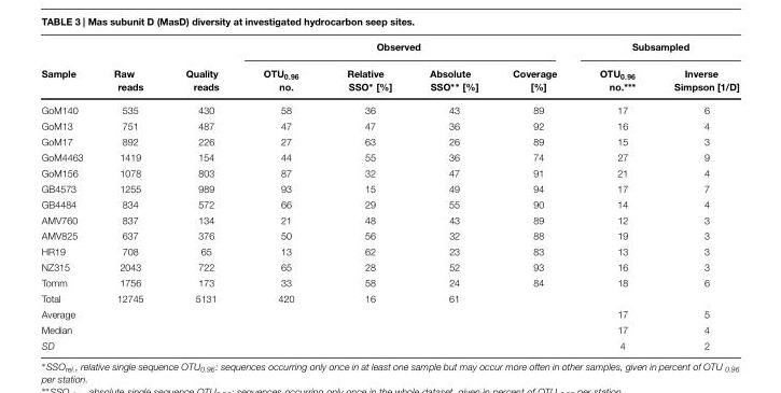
<table><thead><tr><td rowspan="2">Sample</td><td rowspan="2">Raw reads</td><td rowspan="2">Quality reads</td><td colspan="4">Observed</td><td colspan="2">Subsampled</td></tr><tr><td>OTU<sub>0.96</sub> no.</td><td>Relative SSO∗ [%]</td><td>Absolute SSO∗∗ [%]</td><td>Coverage [%]</td><td>OTU<sub>0.96</sub> no.∗∗∗</td><td>Inverse Simpson [1/D]</td></tr></thead><tbody><tr><td>GoM140</td><td>535</td><td>430</td><td>58</td><td>36</td><td>43</td><td>89</td><td>17</td><td>6</td></tr><tr><td>GoM13</td><td>751</td><td>487</td><td>47</td><td>47</td><td>36</td><td>92</td><td>16</td><td>4</td></tr><tr><td>GoM17</td><td>892</td><td>226</td><td>27</td><td>63</td><td>26</td><td>89</td><td>15</td><td>3</td></tr><tr><td>GoM4463</td><td>1419</td><td>154</td><td>44</td><td>55</td><td>36</td><td>74</td><td>27</td><td>9</td></tr><tr><td>GoM156</td><td>1078</td><td>803</td><td>87</td><td>32</td><td>47</td><td>91</td><td>21</td><td>4</td></tr><tr><td>GB4573</td><td>1255</td><td>989</td><td>93</td><td>15</td><td>49</td><td>94</td><td>17</td><td>7</td></tr><tr><td>GB4484</td><td>834</td><td>572</td><td>66</td><td>29</td><td>55</td><td>90</td><td>14</td><td>4</td></tr><tr><td>AMV760</td><td>837</td><td>134</td><td>21</td><td>48</td><td>43</td><td>89</td><td>12</td><td>3</td></tr><tr><td>AMV825</td><td>637</td><td>376</td><td>50</td><td>56</td><td>32</td><td>88</td><td>19</td><td>3</td></tr><tr><td>HR19</td><td>708</td><td>65</td><td>13</td><td>62</td><td>23</td><td>83</td><td>13</td><td>3</td></tr><tr><td>NZ315</td><td>2043</td><td>722</td><td>65</td><td>28</td><td>52</td><td>93</td><td>16</td><td>3</td></tr><tr><td>Tomm</td><td>1756</td><td>173</td><td>33</td><td>58</td><td>24</td><td>84</td><td>18</td><td>6</td></tr><tr><td>Total</td><td>12745</td><td>5131</td><td>420</td><td>16</td><td>61</td><td></td><td></td><td></td></tr><tr><td>Average</td><td></td><td></td><td></td><td></td><td></td><td></td><td>17</td><td>5</td></tr><tr><td>Median</td><td></td><td></td><td></td><td></td><td></td><td></td><td>17</td><td>4</td></tr><tr><td>SD</td><td></td><td></td><td></td><td></td><td></td><td></td><td>4</td><td>2</td></tr></tbody></table>